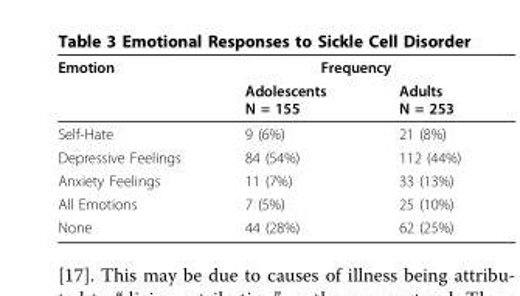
<table><thead><tr><td rowspan="2">Emotion</td><td colspan="2">Frequency</td></tr><tr><td>Adolescents N = 155</td><td>Adults N = 253</td></tr></thead><tbody><tr><td>Self-Hate</td><td>9 (6%)</td><td>21 (8%)</td></tr><tr><td>Depressive Feelings</td><td>84 (54%)</td><td>112 (44%)</td></tr><tr><td>Anxiety Feelings</td><td>11 (7%)</td><td>33 (13%)</td></tr><tr><td>All Emotions</td><td>7 (5%)</td><td>25 (10%)</td></tr><tr><td>None</td><td>44 (28%)</td><td>62 (25%)</td></tr></tbody></table>